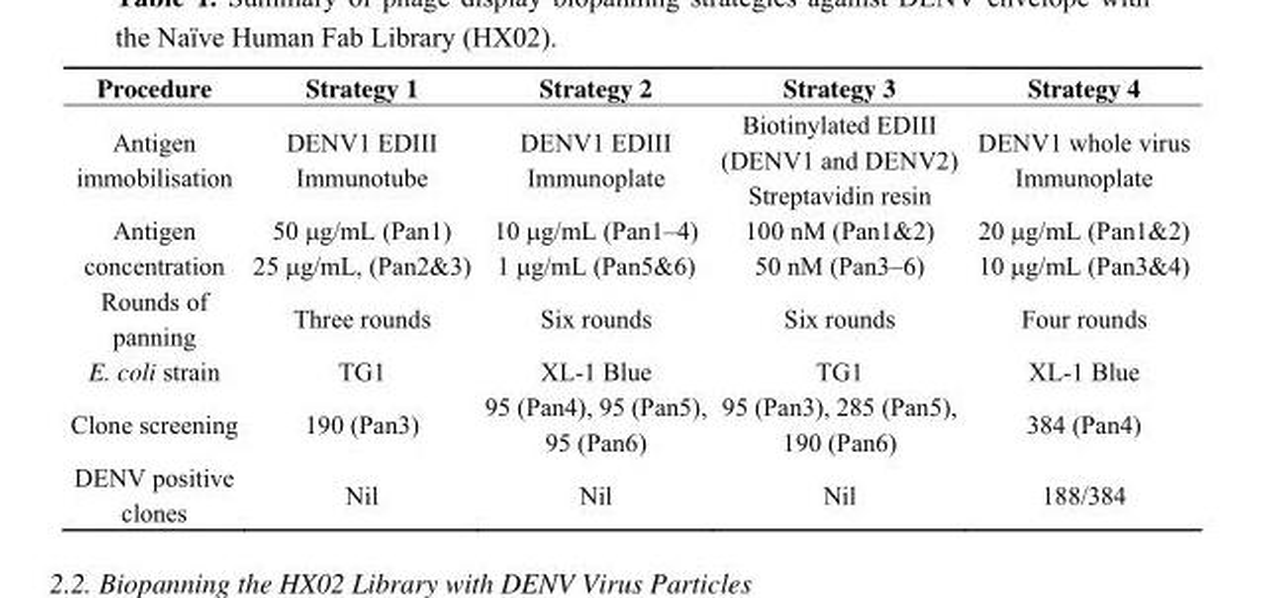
<table><thead><tr><td>Procedure</td><td>Strategy 1</td><td>Strategy 2</td><td>Strategy 3</td><td>Strategy 4</td></tr></thead><tbody><tr><td>Antigen immobilisation</td><td>DENV1 EDIII Immunotube</td><td>DENV1 EDIII Immunoplate</td><td>Biotinylated EDIII (DENV1 and DENV2) Streptavidin resin</td><td>DENV1 whole virus Immunoplate</td></tr><tr><td>Antigen concentration</td><td>50 μg/mL (Pan1) 25 μg/mL, (Pan2&amp;3)</td><td>10 μg/mL (Pan1–4) 1 μg/mL (Pan5&amp;6)</td><td>100 nM (Pan1&amp;2) 50 nM (Pan3–6)</td><td>20 μg/mL (Pan1&amp;2) 10 μg/mL (Pan3&amp;4)</td></tr><tr><td>Rounds of panning</td><td>Three rounds</td><td>Six rounds</td><td>Six rounds</td><td>Four rounds</td></tr><tr><td>E. coli strain</td><td>TG1</td><td>XL-1 Blue</td><td>TG1</td><td>XL-1 Blue</td></tr><tr><td>Clone screening</td><td>190 (Pan3)</td><td>95 (Pan4), 95 (Pan5), 95 (Pan6)</td><td>95 (Pan3), 285 (Pan5), 190 (Pan6)</td><td>384 (Pan4)</td></tr><tr><td>DENV positive clones</td><td>Nil</td><td>Nil</td><td>Nil</td><td>188/384</td></tr></tbody></table>